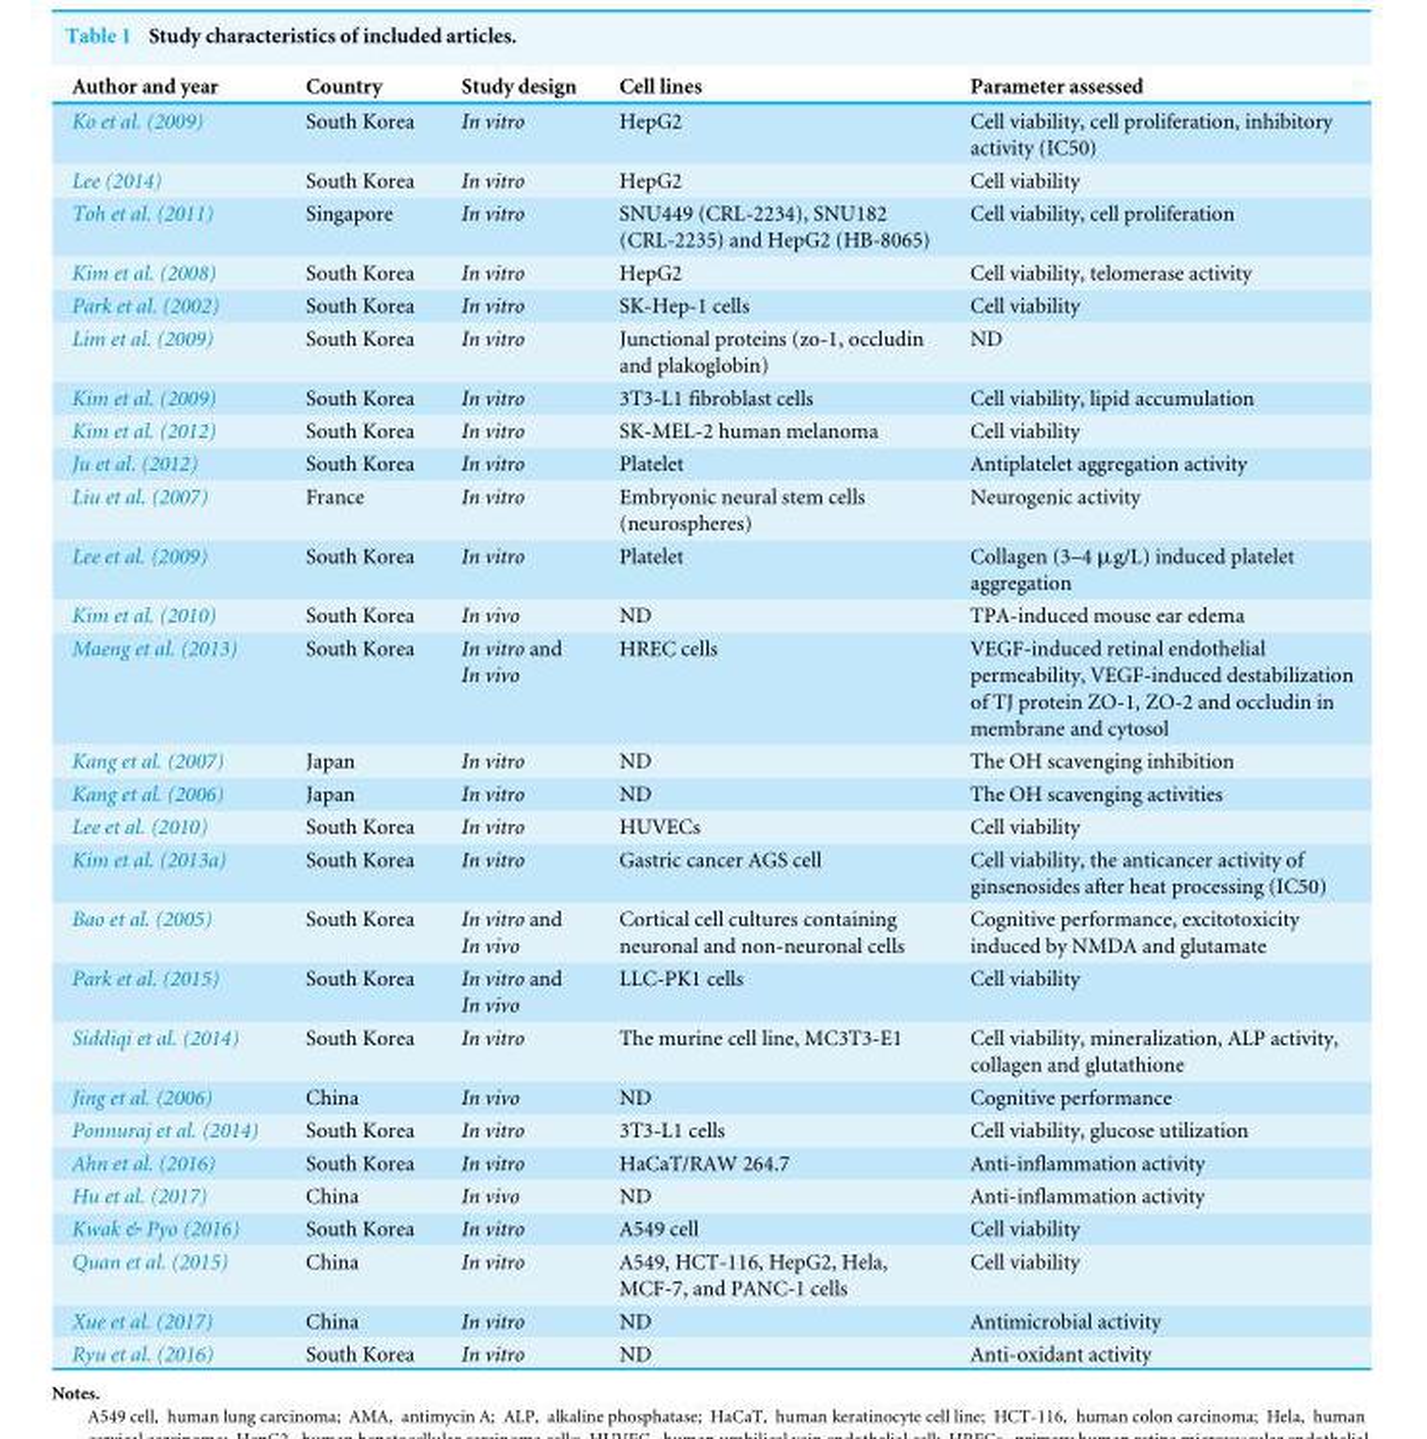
<table><thead><tr><td>Author and year</td><td>Country</td><td>Study design</td><td>Cell lines</td><td>Parameter assessed</td></tr></thead><tbody><tr><td>Ko et al. (2009)</td><td>South Korea</td><td>In vitro</td><td>HepG2</td><td>Cell viability, cell proliferation, inhibitory activity (IC50)</td></tr><tr><td>Lee (2014)</td><td>South Korea</td><td>In vitro</td><td>HepG2</td><td>Cell viability</td></tr><tr><td>Toh et al. (2011)</td><td>Singapore</td><td>In vitro</td><td>SNU449 (CRL-2234), SNU182 (CRL-2235) and HepG2 (HB-8065)</td><td>Cell viability, cell proliferation</td></tr><tr><td>Kim et al. (2008)</td><td>South Korea</td><td>In vitro</td><td>HepG2</td><td>Cell viability, telomerase activity</td></tr><tr><td>Park et al. (2002)</td><td>South Korea</td><td>In vitro</td><td>SK-Hep-1 cells</td><td>Cell viability</td></tr><tr><td>Lim et al. (2009)</td><td>South Korea</td><td>In vitro</td><td>Junctional proteins (zo-1, occludin and plakoglobin)</td><td>ND</td></tr><tr><td>Kim et al. (2009)</td><td>South Korea</td><td>In vitro</td><td>3T3-L1 fibroblast cells</td><td>Cell viability, lipid accumulation</td></tr><tr><td>Kim et al. (2012)</td><td>South Korea</td><td>In vitro</td><td>SK-MEL-2 human melanoma</td><td>Cell viability</td></tr><tr><td>Ju et al. (2012)</td><td>South Korea</td><td>In vitro</td><td>Platelet</td><td>Antiplatelet aggregation activity</td></tr><tr><td>Liu et al. (2007)</td><td>France</td><td>In vitro</td><td>Embryonic neural stem cells (neurospheres)</td><td>Neurogenic activity</td></tr><tr><td>Lee et al. (2009)</td><td>South Korea</td><td>In vitro</td><td>Platelet</td><td>Collagen (3–4 µg/L) induced platelet aggregation</td></tr><tr><td>Kim et al. (2010)</td><td>South Korea</td><td>In vivo</td><td>ND</td><td>TPA-induced mouse ear edema</td></tr><tr><td>Maeng et al. (2013)</td><td>South Korea</td><td>In vitro and In vivo</td><td>HREC cells</td><td>VEGF-induced retinal endothelial permeability, VEGF-induced destabilization of TJ protein ZO-1, ZO-2 and occludin in membrane and cytosol</td></tr><tr><td>Kang et al. (2007)</td><td>Japan</td><td>In vitro</td><td>ND</td><td>The OH scavenging inhibition</td></tr><tr><td>Kang et al. (2006)</td><td>Japan</td><td>In vitro</td><td>ND</td><td>The OH scavenging activities</td></tr><tr><td>Lee et al. (2010)</td><td>South Korea</td><td>In vitro</td><td>HUVECs</td><td>Cell viability</td></tr><tr><td>Kim et al. (2013a)</td><td>South Korea</td><td>In vitro</td><td>Gastric cancer AGS cell</td><td>Cell viability, the anticancer activity of ginsenosides after heat processing (IC50)</td></tr><tr><td>Bao et al. (2005)</td><td>South Korea</td><td>In vitro and In vivo</td><td>Cortical cell cultures containing neuronal and non-neuronal cells</td><td>Cognitive performance, excitotoxicity induced by NMDA and glutamate</td></tr><tr><td>Park et al. (2015)</td><td>South Korea</td><td>In vitro and In vivo</td><td>LLC-PK1 cells</td><td>Cell viability</td></tr><tr><td>Siddiqi et al. (2014)</td><td>South Korea</td><td>In vitro</td><td>The murine cell line, MC3T3-E1</td><td>Cell viability, mineralization, ALP activity, collagen and glutathione</td></tr><tr><td>Jing et al. (2006)</td><td>China</td><td>In vivo</td><td>ND</td><td>Cognitive performance</td></tr><tr><td>Ponnuraj et al. (2014)</td><td>South Korea</td><td>In vitro</td><td>3T3-L1 cells</td><td>Cell viability, glucose utilization</td></tr><tr><td>Ahn et al. (2016)</td><td>South Korea</td><td>In vitro</td><td>HaCaT/RAW 264.7</td><td>Anti-inflammation activity</td></tr><tr><td>Hu et al. (2017)</td><td>China</td><td>In vivo</td><td>ND</td><td>Anti-inflammation activity</td></tr><tr><td>Kwak &amp; Pyo (2016)</td><td>South Korea</td><td>In vitro</td><td>A549 cell</td><td>Cell viability</td></tr><tr><td>Quan et al. (2015)</td><td>China</td><td>In vitro</td><td>A549, HCT-116, HepG2, Hela, MCF-7, and PANC-1 cells</td><td>Cell viability</td></tr><tr><td>Xue et al. (2017)</td><td>China</td><td>In vitro</td><td>ND</td><td>Antimicrobial activity</td></tr><tr><td>Ryu et al. (2016)</td><td>South Korea</td><td>In vitro</td><td>ND</td><td>Anti-oxidant activity</td></tr></tbody></table>